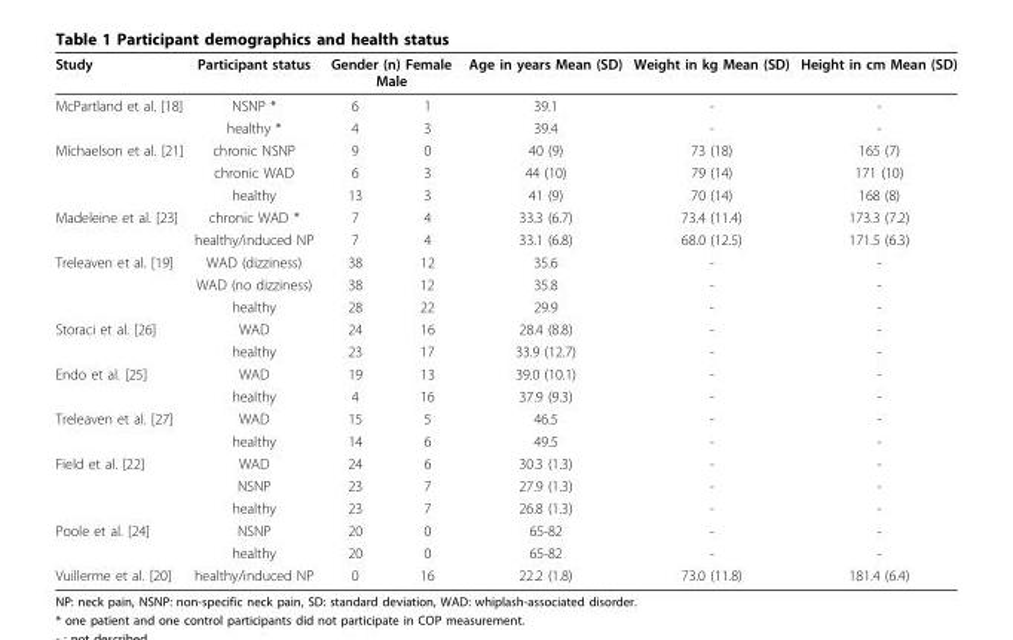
<table><thead><tr><td rowspan="2">Study McPartland et al. [18]</td><td rowspan="2">Participant status NSNP *</td><td colspan="2">Gender (n) Female Male</td><td rowspan="2">Age in years Mean (SD) 39.1</td><td rowspan="2">Weight in kg Mean (SD) -</td><td rowspan="2">Height in cm Mean (SD) -</td></tr><tr><td>6</td><td>1</td></tr></thead><tbody><tr><td></td><td>healthy *</td><td>4</td><td>3</td><td>39.4</td><td>-</td><td>-</td></tr><tr><td rowspan="3">Michaelson et al. [21]</td><td>chronic NSNP</td><td>9</td><td>0</td><td>40 (9)</td><td>73 (18)</td><td>165 (7)</td></tr><tr><td>chronic WAD</td><td>6</td><td>3</td><td>44 (10)</td><td>79 (14)</td><td>171 (10)</td></tr><tr><td>healthy</td><td>13</td><td>3</td><td>41 (9)</td><td>70 (14)</td><td>168 (8)</td></tr><tr><td rowspan="2">Madeleine et al. [23]</td><td>chronic WAD *</td><td>7</td><td>4</td><td>33.3 (6.7)</td><td>73.4 (11.4)</td><td>173.3 (7.2)</td></tr><tr><td>healthy/induced NP</td><td>7</td><td>4</td><td>33.1 (6.8)</td><td>68.0 (12.5)</td><td>171.5 (6.3)</td></tr><tr><td rowspan="3">Treleaven et al. [19]</td><td>WAD (dizziness)</td><td>38</td><td>12</td><td>35.6</td><td>-</td><td>-</td></tr><tr><td>WAD (no dizziness)</td><td>38</td><td>12</td><td>35.8</td><td>-</td><td>-</td></tr><tr><td>healthy</td><td>28</td><td>22</td><td>29.9</td><td>-</td><td>-</td></tr><tr><td rowspan="2">Storaci et al. [26]</td><td>WAD</td><td>24</td><td>16</td><td>28.4 (8.8)</td><td>-</td><td>-</td></tr><tr><td>healthy</td><td>23</td><td>17</td><td>33.9 (12.7)</td><td>-</td><td>-</td></tr><tr><td rowspan="2">Endo et al. [25]</td><td>WAD</td><td>19</td><td>13</td><td>39.0 (10.1)</td><td>-</td><td>-</td></tr><tr><td>healthy</td><td>4</td><td>16</td><td>37.9 (9.3)</td><td>-</td><td>-</td></tr><tr><td rowspan="2">Treleaven et al. [27]</td><td>WAD</td><td>15</td><td>5</td><td>46.5</td><td>-</td><td>-</td></tr><tr><td>healthy</td><td>14</td><td>6</td><td>49.5</td><td>-</td><td>-</td></tr><tr><td rowspan="3">Field et al. [22]</td><td>WAD</td><td>24</td><td>6</td><td>30.3 (1.3)</td><td>-</td><td>-</td></tr><tr><td>NSNP</td><td>23</td><td>7</td><td>27.9 (1.3)</td><td>-</td><td>-</td></tr><tr><td>healthy</td><td>23</td><td>7</td><td>26.8 (1.3)</td><td>-</td><td>-</td></tr><tr><td rowspan="2">Poole et al. [24]</td><td>NSNP</td><td>20</td><td>0</td><td>65-82</td><td>-</td><td>-</td></tr><tr><td>healthy</td><td>20</td><td>0</td><td>65-82</td><td>-</td><td>-</td></tr><tr><td>Vuillerme et al. [20]</td><td>healthy/induced NP</td><td>0</td><td>16</td><td>22.2 (1.8)</td><td>73.0 (11.8)</td><td>181.4 (6.4)</td></tr></tbody></table>